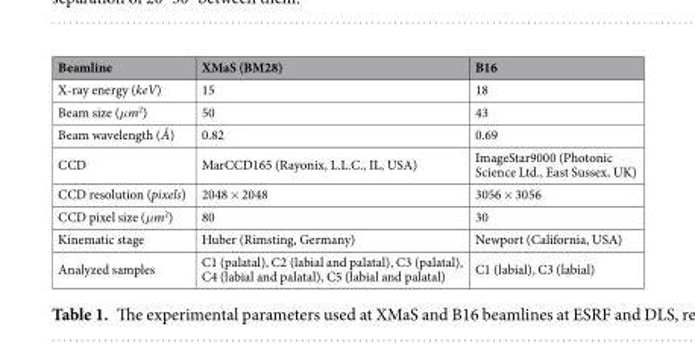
<table><thead><tr><td>Beamline</td><td>XMaS (BM28)</td><td>B16</td></tr></thead><tbody><tr><td>X-ray energy (keV)</td><td>15</td><td>18</td></tr><tr><td>Beam size (μm<sup>2</sup>)</td><td>50</td><td>43</td></tr><tr><td>Beam wavelength (Å)</td><td>0.82</td><td>0.69</td></tr><tr><td>CCD</td><td>MarCCD165 (Rayonix, L.L.C., IL, USA)</td><td>ImageStar9000 (Photonic Science Ltd., East Sussex, UK)</td></tr><tr><td>CCD resolution (pixels)</td><td>2048 × 2048</td><td>3056 × 3056</td></tr><tr><td>CCD pixel size (μm<sup>2</sup>)</td><td>80</td><td>30</td></tr><tr><td>Kinematic stage</td><td>Huber (Rimsting, Germany)</td><td>Newport (California, USA)</td></tr><tr><td>Analyzed samples</td><td>C1 (palatal), C2 (labial and palatal), C3 (palatal), C4 (labial and palatal), C5 (labial and palatal)</td><td>C1 (labial), C3 (labial)</td></tr></tbody></table>